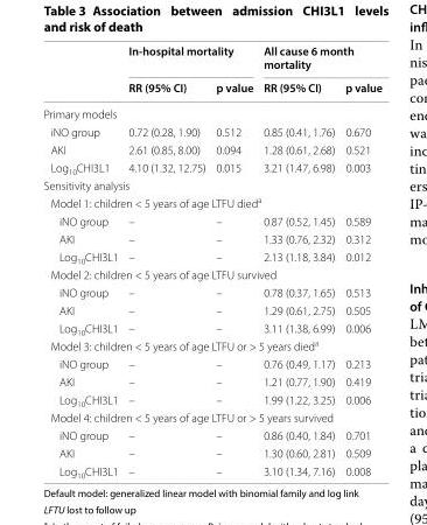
<table><thead><tr><td rowspan="2"></td><td colspan="2">In‑hospital mortality</td><td colspan="2">All cause 6 month mortality</td></tr><tr><td>RR (95% CI)</td><td>p value</td><td>RR (95% CI)</td><td>p value</td></tr></thead><tbody><tr><td colspan="5">Primary models</td></tr><tr><td>iNO group</td><td>0.72 (0.28, 1.90)</td><td>0.512</td><td>0.85 (0.41, 1.76)</td><td>0.670</td></tr><tr><td>AKI</td><td>2.61 (0.85, 8.00)</td><td>0.094</td><td>1.28 (0.61, 2.68)</td><td>0.521</td></tr><tr><td>Log<sub>10</sub>CHI3L1</td><td>4.10 (1.32, 12.75)</td><td>0.015</td><td>3.21 (1.47, 6.98)</td><td>0.003</td></tr><tr><td colspan="5">Sensitivity analysis</td></tr><tr><td colspan="5">Model 1: children &lt; 5 years of age LTFU died<sup>a</sup></td></tr><tr><td>iNO group</td><td>–</td><td>–</td><td>0.87 (0.52, 1.45)</td><td>0.589</td></tr><tr><td>AKI</td><td>–</td><td>–</td><td>1.33 (0.76, 2.32)</td><td>0.312</td></tr><tr><td>Log<sub>10</sub>CHI3L1</td><td>–</td><td>–</td><td>2.13 (1.18, 3.84)</td><td>0.012</td></tr><tr><td colspan="5">Model 2: children &lt; 5 years of age LTFU survived</td></tr><tr><td>iNO group</td><td>–</td><td>–</td><td>0.78 (0.37, 1.65)</td><td>0.513</td></tr><tr><td>AKI</td><td>–</td><td>–</td><td>1.29 (0.61, 2.75)</td><td>0.505</td></tr><tr><td>Log<sub>10</sub>CHI3L1</td><td>–</td><td>–</td><td>3.11 (1.38, 6.99)</td><td>0.006</td></tr><tr><td colspan="5">Model 3: children &lt; 5 years of age LTFU or &gt; 5 years died<sup>a</sup></td></tr><tr><td>iNO group</td><td>–</td><td>–</td><td>0.76 (0.49, 1.17)</td><td>0.213</td></tr><tr><td>AKI</td><td>–</td><td>–</td><td>1.21 (0.77, 1.90)</td><td>0.419</td></tr><tr><td>Log<sub>10</sub>CHI3L1</td><td>–</td><td>–</td><td>1.99 (1.22, 3.25)</td><td>0.006</td></tr><tr><td colspan="5">Model 4: children &lt; 5 years of age LTFU or &gt; 5 years survived</td></tr><tr><td>iNO group</td><td>–</td><td>–</td><td>0.86 (0.40, 1.84)</td><td>0.701</td></tr><tr><td>AKI</td><td>–</td><td>–</td><td>1.30 (0.60, 2.81)</td><td>0.509</td></tr><tr><td>Log<sub>10</sub>CHI3L1</td><td>–</td><td>–</td><td>3.10 (1.34, 7.16)</td><td>0.008</td></tr></tbody></table>